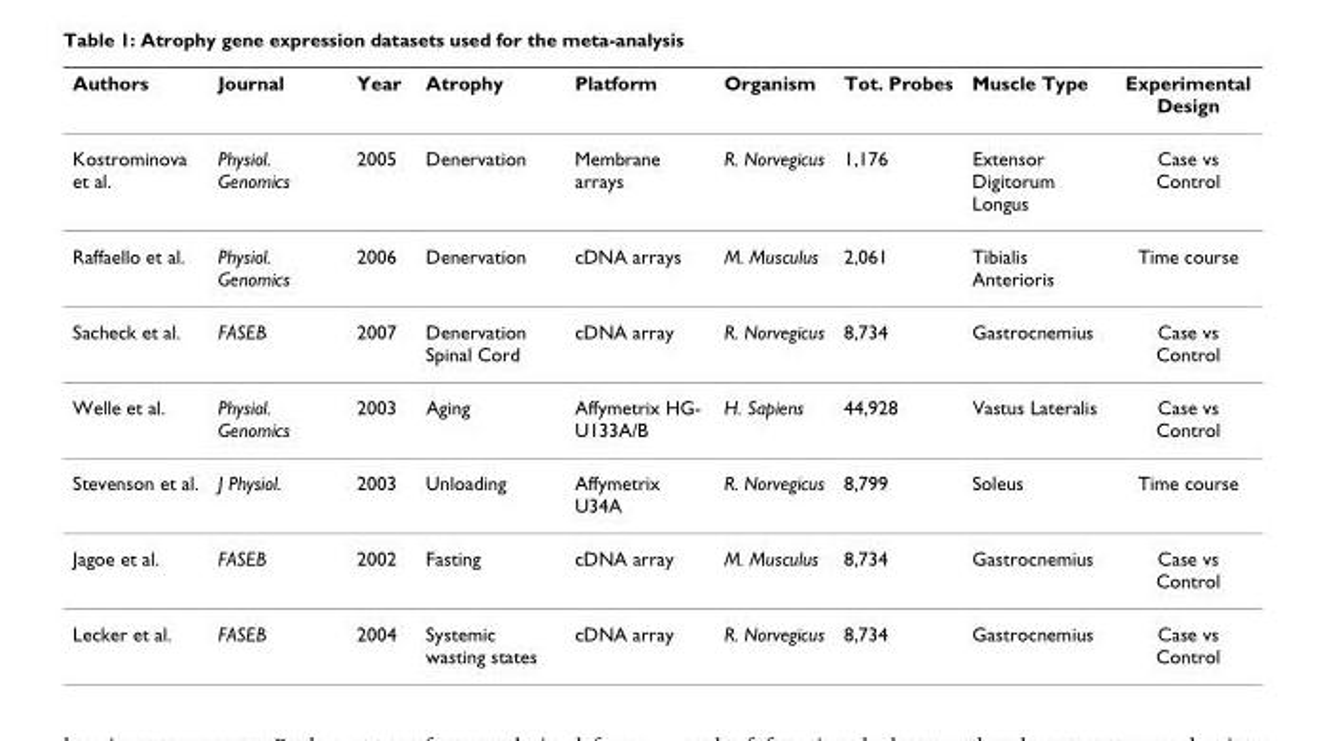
<table><thead><tr><td>Authors</td><td>Journal</td><td>Year</td><td>Atrophy</td><td>Platform</td><td>Organism</td><td>Tot. Probes</td><td>Muscle Type</td><td>Experimental Design</td></tr></thead><tbody><tr><td>Kostrominova et al.</td><td>Physiol. Genomics</td><td>2005</td><td>Denervation</td><td>Membrane arrays</td><td>R. Norvegicus</td><td>1,176</td><td>Extensor Digitorum Longus</td><td>Case vs Control</td></tr><tr><td>Raffaello et al.</td><td>Physiol. Genomics</td><td>2006</td><td>Denervation</td><td>cDNA arrays</td><td>M. Musculus</td><td>2,061</td><td>Tibialis Anterioris</td><td>Time course</td></tr><tr><td>Sacheck et al.</td><td>FASEB</td><td>2007</td><td>Denervation Spinal Cord</td><td>cDNA array</td><td>R. Norvegicus</td><td>8,734</td><td>Gastrocnemius</td><td>Case vs Control</td></tr><tr><td>Welle et al.</td><td>Physiol. Genomics</td><td>2003</td><td>Aging</td><td>Affymetrix HG- U133A/B</td><td>H. Sapiens</td><td>44,928</td><td>Vastus Lateralis</td><td>Case vs Control</td></tr><tr><td>Stevenson et al.</td><td>J Physiol.</td><td>2003</td><td>Unloading</td><td>Affymetrix U34A</td><td>R. Norvegicus</td><td>8,799</td><td>Soleus</td><td>Time course</td></tr><tr><td>Jagoe et al.</td><td>FASEB</td><td>2002</td><td>Fasting</td><td>cDNA array</td><td>M. Musculus</td><td>8,734</td><td>Gastrocnemius</td><td>Case vs Control</td></tr><tr><td>Lecker et al.</td><td>FASEB</td><td>2004</td><td>Systemic wasting states</td><td>cDNA array</td><td>R. Norvegicus</td><td>8,734</td><td>Gastrocnemius</td><td>Case vs Control</td></tr></tbody></table>